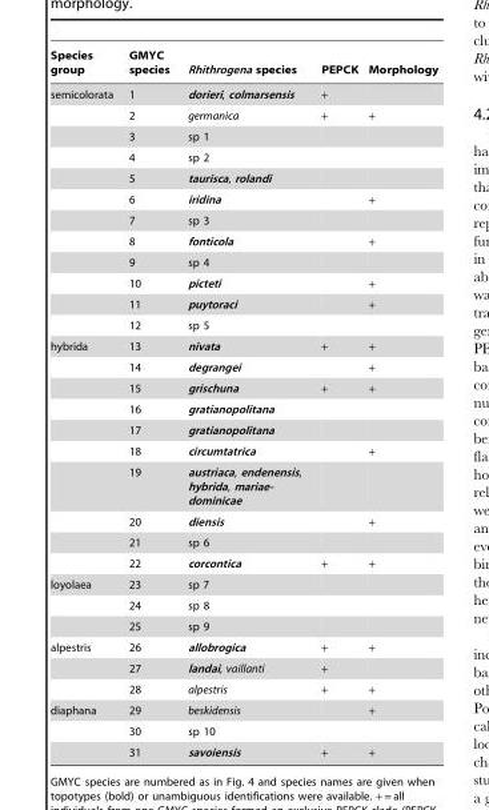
<table><thead><tr><td>Species group</td><td>GMYC species</td><td>Rhithrogena species</td><td>PEPCK</td><td>Morphology</td></tr></thead><tbody><tr><td rowspan="12">semicolorata</td><td>1</td><td>dorieri, colmarsensis</td><td>+</td><td></td></tr><tr><td>2</td><td>germanica</td><td>+</td><td>+</td></tr><tr><td>3</td><td>sp 1</td><td></td><td></td></tr><tr><td>4</td><td>sp 2</td><td></td><td></td></tr><tr><td>5</td><td>taurisca, rolandi</td><td></td><td></td></tr><tr><td>6</td><td>iridina</td><td></td><td>+</td></tr><tr><td>7</td><td>sp 3</td><td></td><td></td></tr><tr><td>8</td><td>fonticola</td><td></td><td>+</td></tr><tr><td>9</td><td>sp 4</td><td></td><td></td></tr><tr><td>10</td><td>picteti</td><td></td><td>+</td></tr><tr><td>11</td><td>puytoraci</td><td></td><td>+</td></tr><tr><td>12</td><td>sp 5</td><td></td><td></td></tr><tr><td rowspan="10">hybrida</td><td>13</td><td>nivata</td><td>+</td><td>+</td></tr><tr><td>14</td><td>degrangei</td><td></td><td>+</td></tr><tr><td>15</td><td>grischuna</td><td>+</td><td>+</td></tr><tr><td>16</td><td>gratianopolitana</td><td></td><td></td></tr><tr><td>17</td><td>gratianopolitana</td><td></td><td></td></tr><tr><td>18</td><td>circumtatrica</td><td></td><td>+</td></tr><tr><td>19</td><td>austriaca, endenensis, hybrida, mariae- dominicae</td><td></td><td></td></tr><tr><td>20</td><td>diensis</td><td></td><td>+</td></tr><tr><td>21</td><td>sp 6</td><td></td><td></td></tr><tr><td>22</td><td>corcontica</td><td>+</td><td>+</td></tr><tr><td rowspan="3">loyolaea</td><td>23</td><td>sp 7</td><td></td><td></td></tr><tr><td>24</td><td>sp 8</td><td></td><td></td></tr><tr><td>25</td><td>sp 9</td><td></td><td></td></tr><tr><td rowspan="3">alpestris</td><td>26</td><td>allobrogica</td><td>+</td><td>+</td></tr><tr><td>27</td><td>landai, vaillanti</td><td>+</td><td></td></tr><tr><td>28</td><td>alpestris</td><td>+</td><td>+</td></tr><tr><td rowspan="3">diaphana</td><td>29</td><td>beskidensis</td><td></td><td>+</td></tr><tr><td>30</td><td>sp 10</td><td></td><td></td></tr><tr><td>31</td><td>savoiensis</td><td>+</td><td>+</td></tr></tbody></table>